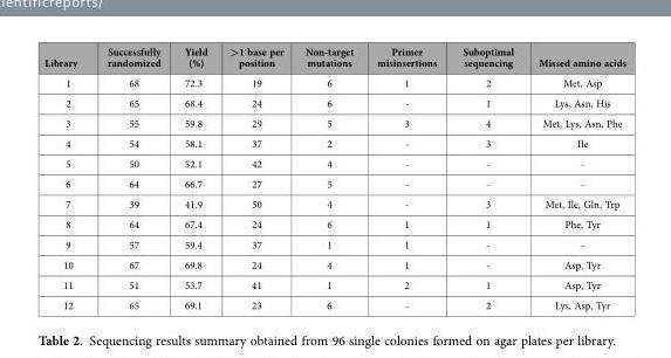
<table><thead><tr><td>Library</td><td>Successfully randomized</td><td>Yield (%)</td><td>&gt;1 base per position</td><td>Non-target mutations</td><td>Primer misinsertions</td><td>Suboptimal sequencing</td><td>Missed amino acids</td></tr></thead><tbody><tr><td>1</td><td>68</td><td>72.3</td><td>19</td><td>6</td><td>1</td><td>2</td><td>Met, Asp</td></tr><tr><td>2</td><td>65</td><td>68.4</td><td>24</td><td>6</td><td>-</td><td>1</td><td>Lys, Asn, His</td></tr><tr><td>3</td><td>55</td><td>59.8</td><td>29</td><td>5</td><td>3</td><td>4</td><td>Met, Lys, Asn, Phe</td></tr><tr><td>4</td><td>54</td><td>58.1</td><td>37</td><td>2</td><td>-</td><td>3</td><td>Ile</td></tr><tr><td>5</td><td>50</td><td>52.1</td><td>42</td><td>4</td><td>-</td><td>-</td><td>-</td></tr><tr><td>6</td><td>64</td><td>66.7</td><td>27</td><td>5</td><td>-</td><td>-</td><td>-</td></tr><tr><td>7</td><td>39</td><td>41.9</td><td>50</td><td>4</td><td>-</td><td>3</td><td>Met, Ile, Gln, Trp</td></tr><tr><td>8</td><td>64</td><td>67.4</td><td>24</td><td>6</td><td>1</td><td>1</td><td>Phe, Tyr</td></tr><tr><td>9</td><td>57</td><td>59.4</td><td>37</td><td>1</td><td>1</td><td>-</td><td>-</td></tr><tr><td>10</td><td>67</td><td>69.8</td><td>24</td><td>4</td><td>1</td><td>-</td><td>Asp, Tyr</td></tr><tr><td>11</td><td>51</td><td>53.7</td><td>41</td><td>1</td><td>2</td><td>1</td><td>Asp, Tyr</td></tr><tr><td>12</td><td>65</td><td>69.1</td><td>23</td><td>6</td><td>-</td><td>2</td><td>Lys, Asp, Tyr</td></tr></tbody></table>